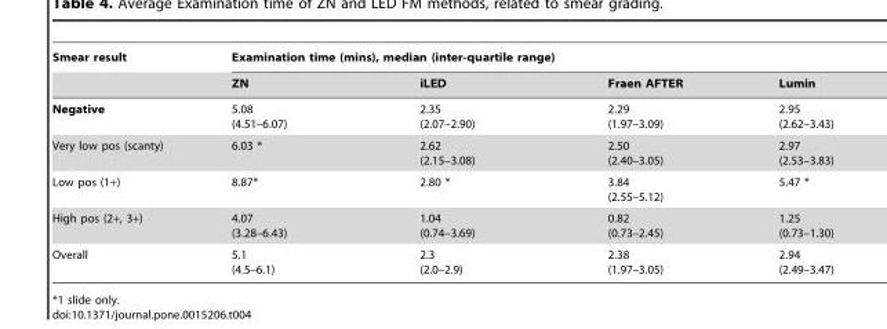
<table><thead><tr><td rowspan="2">Smear result</td><td colspan="4">Examination time (mins), median (inter-quartile range)</td></tr><tr><td>ZN</td><td>iLED</td><td>Fraen AFTER</td><td>Lumin</td></tr></thead><tbody><tr><td>Negative</td><td>5.08 (4.51–6.07)</td><td>2.35 (2.07–2.90)</td><td>2.29 (1.97–3.09)</td><td>2.95 (2.62–3.43)</td></tr><tr><td>Very low pos (scanty)</td><td>6.03 *</td><td>2.62 (2.15–3.08)</td><td>2.50 (2.40–3.05)</td><td>2.97 (2.53–3.83)</td></tr><tr><td>Low pos (1+)</td><td>8.87*</td><td>2.80 *</td><td>3.84 (2.55–5.12)</td><td>5.47 *</td></tr><tr><td>High pos (2+, 3+)</td><td>4.07 (3.28–6.43)</td><td>1.04 (0.74–3.69)</td><td>0.82 (0.73–2.45)</td><td>1.25 (0.73–1.30)</td></tr><tr><td>Overall</td><td>5.1 (4.5–6.1)</td><td>2.3 (2.0–2.9)</td><td>2.38 (1.97–3.05)</td><td>2.94 (2.49–3.47)</td></tr></tbody></table>